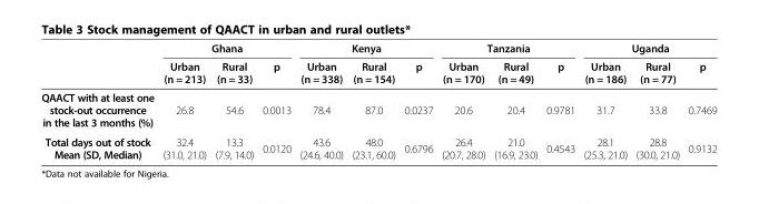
<table><thead><tr><td rowspan="2"></td><td colspan="3">Ghana</td><td colspan="3">Kenya</td><td colspan="3">Tanzania</td><td colspan="3">Uganda</td></tr><tr><td>Urban (n = 213)</td><td>Rural (n = 33)</td><td>p</td><td>Urban (n = 338)</td><td>Rural (n = 154)</td><td>p</td><td>Urban (n = 170)</td><td>Rural (n = 49)</td><td>p</td><td>Urban (n = 186)</td><td>Rural (n = 77)</td><td>p</td></tr></thead><tbody><tr><td>QAACT with at least one stock-out occurrence in the last 3 months (%)</td><td>26.8</td><td>54.6</td><td>0.0013</td><td>78.4</td><td>87.0</td><td>0.0237</td><td>20.6</td><td>20.4</td><td>0.9781</td><td>31.7</td><td>33.8</td><td>0.7469</td></tr><tr><td>Total days out of stock Mean (SD, Median)</td><td>32.4 (31.0, 21.0)</td><td>13.3 (7.9, 14.0)</td><td>0.0120</td><td>43.6 (24.6, 40.0)</td><td>48.0 (23.1, 60.0)</td><td>0.6796</td><td>26.4 (20.7, 28.0)</td><td>21.0 (16.9, 23.0)</td><td>0.4543</td><td>28.1 (25.3, 21.0)</td><td>28.8 (30.0, 21.0)</td><td>0.9132</td></tr></tbody></table>